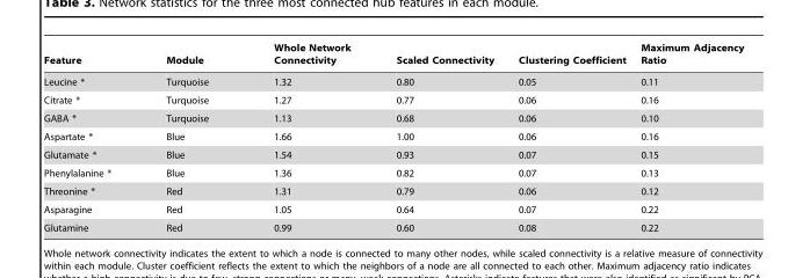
<table><thead><tr><td>Feature</td><td>Module</td><td>Whole Network Connectivity</td><td>Scaled Connectivity</td><td>Clustering Coefficient</td><td>Maximum Adjacency Ratio</td></tr></thead><tbody><tr><td>Leucine *</td><td>Turquoise</td><td>1.32</td><td>0.80</td><td>0.05</td><td>0.11</td></tr><tr><td>Citrate *</td><td>Turquoise</td><td>1.27</td><td>0.77</td><td>0.06</td><td>0.16</td></tr><tr><td>GABA *</td><td>Turquoise</td><td>1.13</td><td>0.68</td><td>0.06</td><td>0.10</td></tr><tr><td>Aspartate *</td><td>Blue</td><td>1.66</td><td>1.00</td><td>0.06</td><td>0.16</td></tr><tr><td>Glutamate *</td><td>Blue</td><td>1.54</td><td>0.93</td><td>0.07</td><td>0.15</td></tr><tr><td>Phenylalanine *</td><td>Blue</td><td>1.36</td><td>0.82</td><td>0.07</td><td>0.13</td></tr><tr><td>Threonine *</td><td>Red</td><td>1.31</td><td>0.79</td><td>0.06</td><td>0.12</td></tr><tr><td>Asparagine</td><td>Red</td><td>1.05</td><td>0.64</td><td>0.07</td><td>0.22</td></tr><tr><td>Glutamine</td><td>Red</td><td>0.99</td><td>0.60</td><td>0.08</td><td>0.22</td></tr></tbody></table>